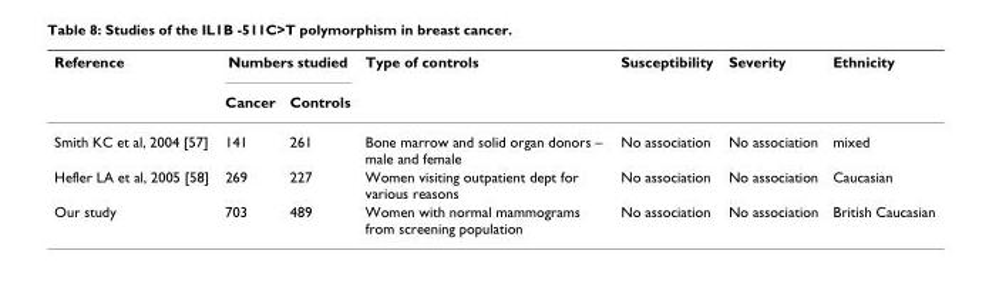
<table><thead><tr><td rowspan="2">Reference</td><td colspan="2">Numbers studied</td><td rowspan="2">Type of controls</td><td rowspan="2">Susceptibility</td><td rowspan="2">Severity</td><td rowspan="2">Ethnicity</td></tr><tr><td>Cancer</td><td>Controls</td></tr></thead><tbody><tr><td>Smith KC et al, 2004 [57]</td><td>141</td><td>261</td><td>Bone marrow and solid organ donors – male and female</td><td>No association</td><td>No association</td><td>mixed</td></tr><tr><td>Hefler LA et al, 2005 [58]</td><td>269</td><td>227</td><td>Women visiting outpatient dept for various reasons</td><td>No association</td><td>No association</td><td>Caucasian</td></tr><tr><td>Our study</td><td>703</td><td>489</td><td>Women with normal mammograms from screening population</td><td>No association</td><td>No association</td><td>British Caucasian</td></tr></tbody></table>